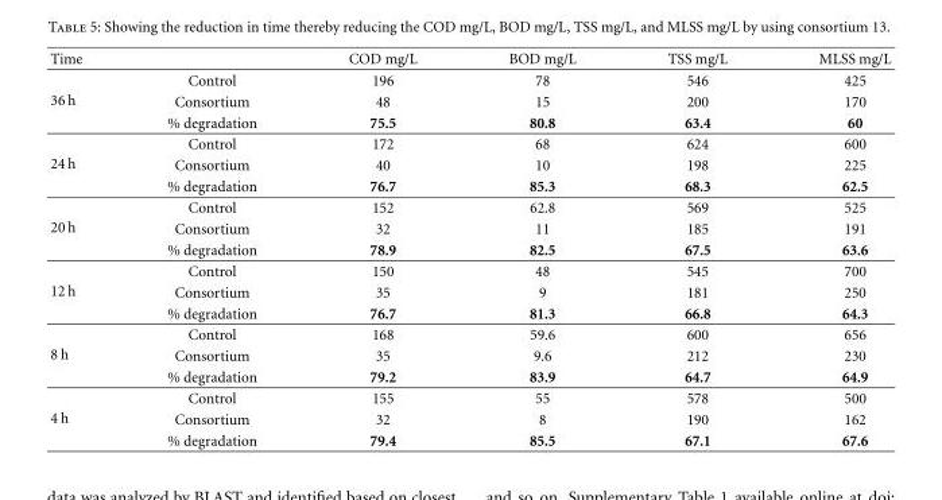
<table><thead><tr><td>Time</td><td></td><td>COD mg/L</td><td>BOD mg/L</td><td>TSS mg/L</td><td>MLSS mg/L</td></tr></thead><tbody><tr><td rowspan="3">36 h</td><td>Control</td><td>196</td><td>78</td><td>546</td><td>425</td></tr><tr><td>Consortium</td><td>48</td><td>15</td><td>200</td><td>170</td></tr><tr><td>% degradation</td><td>75.5</td><td>80.8</td><td>63.4</td><td>60</td></tr><tr><td rowspan="3">24 h</td><td>Control</td><td>172</td><td>68</td><td>624</td><td>600</td></tr><tr><td>Consortium</td><td>40</td><td>10</td><td>198</td><td>225</td></tr><tr><td>% degradation</td><td>76.7</td><td>85.3</td><td>68.3</td><td>62.5</td></tr><tr><td rowspan="3">20 h</td><td>Control</td><td>152</td><td>62.8</td><td>569</td><td>525</td></tr><tr><td>Consortium</td><td>32</td><td>11</td><td>185</td><td>191</td></tr><tr><td>% degradation</td><td>78.9</td><td>82.5</td><td>67.5</td><td>63.6</td></tr><tr><td rowspan="3">12 h</td><td>Control</td><td>150</td><td>48</td><td>545</td><td>700</td></tr><tr><td>Consortium</td><td>35</td><td>9</td><td>181</td><td>250</td></tr><tr><td>% degradation</td><td>76.7</td><td>81.3</td><td>66.8</td><td>64.3</td></tr><tr><td rowspan="3">8 h</td><td>Control</td><td>168</td><td>59.6</td><td>600</td><td>656</td></tr><tr><td>Consortium</td><td>35</td><td>9.6</td><td>212</td><td>230</td></tr><tr><td>% degradation</td><td>79.2</td><td>83.9</td><td>64.7</td><td>64.9</td></tr><tr><td rowspan="3">4 h</td><td>Control</td><td>155</td><td>55</td><td>578</td><td>500</td></tr><tr><td>Consortium</td><td>32</td><td>8</td><td>190</td><td>162</td></tr><tr><td>% degradation</td><td>79.4</td><td>85.5</td><td>67.1</td><td>67.6</td></tr></tbody></table>